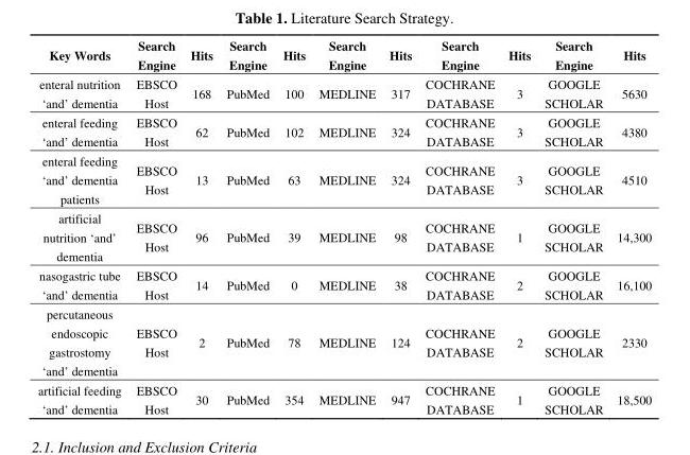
<table><thead><tr><td>Key Words</td><td>Search Engine</td><td>Hits</td><td>Search Engine</td><td>Hits</td><td>Search Engine</td><td>Hits</td><td>Search Engine</td><td>Hits</td><td>Search Engine</td><td>Hits</td></tr></thead><tbody><tr><td>enteral nutrition ‘and’ dementia</td><td>EBSCO Host</td><td>168</td><td>PubMed</td><td>100</td><td>MEDLINE</td><td>317</td><td>COCHRANE DATABASE</td><td>3</td><td>GOOGLE SCHOLAR</td><td>5630</td></tr><tr><td>enteral feeding ‘and’ dementia</td><td>EBSCO Host</td><td>62</td><td>PubMed</td><td>102</td><td>MEDLINE</td><td>324</td><td>COCHRANE DATABASE</td><td>3</td><td>GOOGLE SCHOLAR</td><td>4380</td></tr><tr><td>enteral feeding ‘and’ dementia patients</td><td>EBSCO Host</td><td>13</td><td>PubMed</td><td>63</td><td>MEDLINE</td><td>324</td><td>COCHRANE DATABASE</td><td>3</td><td>GOOGLE SCHOLAR</td><td>4510</td></tr><tr><td>artificial nutrition ‘and’ dementia</td><td>EBSCO Host</td><td>96</td><td>PubMed</td><td>39</td><td>MEDLINE</td><td>98</td><td>COCHRANE DATABASE</td><td>1</td><td>GOOGLE SCHOLAR</td><td>14,300</td></tr><tr><td>nasogastric tube ‘and’ dementia</td><td>EBSCO Host</td><td>14</td><td>PubMed</td><td>0</td><td>MEDLINE</td><td>38</td><td>COCHRANE DATABASE</td><td>2</td><td>GOOGLE SCHOLAR</td><td>16,100</td></tr><tr><td>percutaneous endoscopic gastrostomy ‘and’ dementia</td><td>EBSCO Host</td><td>2</td><td>PubMed</td><td>78</td><td>MEDLINE</td><td>124</td><td>COCHRANE DATABASE</td><td>2</td><td>GOOGLE SCHOLAR</td><td>2330</td></tr><tr><td>artificial feeding ‘and’ dementia</td><td>EBSCO Host</td><td>30</td><td>PubMed</td><td>354</td><td>MEDLINE</td><td>947</td><td>COCHRANE DATABASE</td><td>1</td><td>GOOGLE SCHOLAR</td><td>18,500</td></tr></tbody></table>